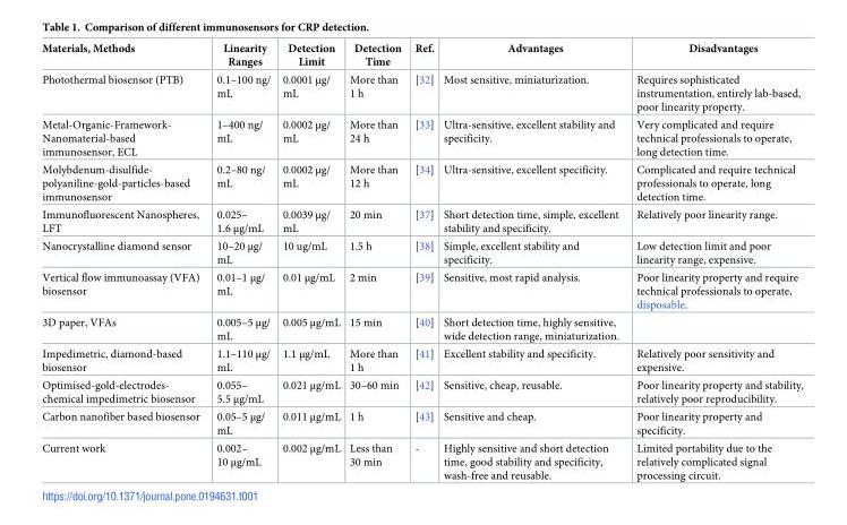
<table><thead><tr><td>Materials, Methods</td><td>Linearity Ranges</td><td>Detection Limit</td><td>Detection Time</td><td>Ref.</td><td>Advantages</td><td>Disadvantages</td></tr></thead><tbody><tr><td>Photothermal biosensor (PTB)</td><td>0.1–100 ng/ mL</td><td>0.0001 μg/ mL</td><td>More than 1 h</td><td>[32]</td><td>Most sensitive, miniaturization.</td><td>Requires sophisticated instrumentation, entirely lab-based, poor linearity property.</td></tr><tr><td>Metal-Organic-Framework- Nanomaterial-based immunosensor, ECL</td><td>1–400 ng/ mL</td><td>0.0002 μg/ mL</td><td>More than 24 h</td><td>[33]</td><td>Ultra-sensitive, excellent stability and specificity.</td><td>Very complicated and require technical professionals to operate, long detection time.</td></tr><tr><td>Molybdenum-disulfide- polyaniline-gold-particles-based immunosensor</td><td>0.2–80 ng/ mL</td><td>0.0002 μg/ mL</td><td>More than 12 h</td><td>[34]</td><td>Ultra-sensitive, excellent specificity.</td><td>Complicated and require technical professionals to operate, long detection time.</td></tr><tr><td>Immunofluorescent Nanospheres, LFT</td><td>0.025– 1.6 μg/mL</td><td>0.0039 μg/ mL</td><td>20 min</td><td>[37]</td><td>Short detection time, simple, excellent stability and specificity.</td><td>Relatively poor linearity range.</td></tr><tr><td>Nanocrystalline diamond sensor</td><td>10–20 μg/ mL</td><td>10 ug/mL</td><td>1.5 h</td><td>[38]</td><td>Simple, excellent stability and specificity.</td><td>Low detection limit and poor linearity range, expensive.</td></tr><tr><td>Vertical flow immunoassay (VFA) biosensor</td><td>0.01–1 μg/ mL</td><td>0.01 μg/mL</td><td>2 min</td><td>[39]</td><td>Sensitive, most rapid analysis.</td><td>Poor linearity property and require technical professionals to operate, disposable.</td></tr><tr><td>3D paper, VFAs</td><td>0.005–5 μg/ mL</td><td>0.005 μg/mL</td><td>15 min</td><td>[40]</td><td>Short detection time, highly sensitive, wide detection range, miniaturization.</td><td></td></tr><tr><td>Impedimetric, diamond-based biosensor</td><td>1.1–110 μg/ mL</td><td>1.1 μg/mL</td><td>More than 1 h</td><td>[41]</td><td>Excellent stability and specificity.</td><td>Relatively poor sensitivity and expensive.</td></tr><tr><td>Optimised-gold-electrodes- chemical impedimetric biosensor</td><td>0.055– 5.5 μg/mL</td><td>0.021 μg/mL</td><td>30–60 min</td><td>[42]</td><td>Sensitive, cheap, reusable.</td><td>Poor linearity property and stability, relatively poor reproducibility.</td></tr><tr><td>Carbon nanofiber based biosensor</td><td>0.05–5 μg/ mL</td><td>0.011 μg/mL</td><td>1 h</td><td>[43]</td><td>Sensitive and cheap.</td><td>Poor linearity property and specificity.</td></tr><tr><td>Current work</td><td>0.002– 10 μg/mL</td><td>0.002 μg/mL</td><td>Less than 30 min</td><td>-</td><td>Highly sensitive and short detection time, good stability and specificity, wash-free and reusable.</td><td>Limited portability due to the relatively complicated signal processing circuit.</td></tr></tbody></table>